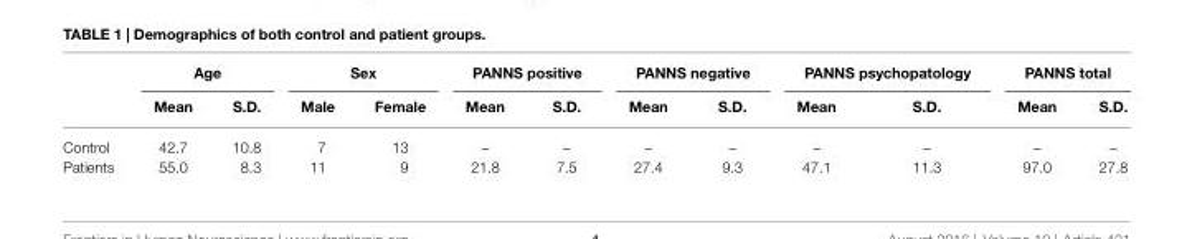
<table><thead><tr><td rowspan="2"></td><td colspan="2">Age</td><td colspan="2">Sex</td><td colspan="2">PANNS positive</td><td colspan="2">PANNS negative</td><td colspan="2">PANNS psychopatology</td><td colspan="2">PANNS total</td></tr><tr><td>Mean</td><td>S.D.</td><td>Male</td><td>Female</td><td>Mean</td><td>S.D.</td><td>Mean</td><td>S.D.</td><td>Mean</td><td>S.D.</td><td>Mean</td><td>S.D.</td></tr></thead><tbody><tr><td>Control</td><td>42.7</td><td>10.8</td><td>7</td><td>13</td><td>–</td><td>–</td><td>–</td><td>–</td><td>–</td><td>–</td><td>–</td><td>–</td></tr><tr><td>Patients</td><td>55.0</td><td>8.3</td><td>11</td><td>9</td><td>21.8</td><td>7.5</td><td>27.4</td><td>9.3</td><td>47.1</td><td>11.3</td><td>97.0</td><td>27.8</td></tr></tbody></table>